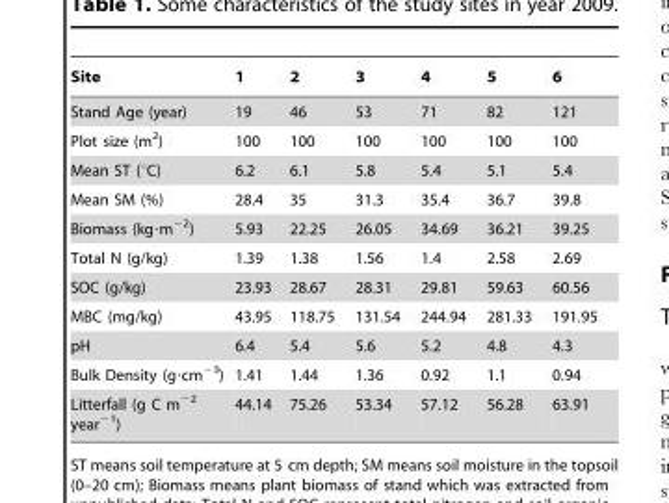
<table><thead><tr><td>Site</td><td>1</td><td>2</td><td>3</td><td>4</td><td>5</td><td>6</td></tr></thead><tbody><tr><td>Stand Age (year)</td><td>19</td><td>46</td><td>53</td><td>71</td><td>82</td><td>121</td></tr><tr><td>Plot size (m<sup>2</sup>)</td><td>100</td><td>100</td><td>100</td><td>100</td><td>100</td><td>100</td></tr><tr><td>Mean ST (°C)</td><td>6.2</td><td>6.1</td><td>5.8</td><td>5.4</td><td>5.1</td><td>5.4</td></tr><tr><td>Mean SM (%)</td><td>28.4</td><td>35</td><td>31.3</td><td>35.4</td><td>36.7</td><td>39.8</td></tr><tr><td>Biomass (kg·m<sup>−2</sup>)</td><td>5.93</td><td>22.25</td><td>26.05</td><td>34.69</td><td>36.21</td><td>39.25</td></tr><tr><td>Total N (g/kg)</td><td>1.39</td><td>1.38</td><td>1.56</td><td>1.4</td><td>2.58</td><td>2.69</td></tr><tr><td>SOC (g/kg)</td><td>23.93</td><td>28.67</td><td>28.31</td><td>29.81</td><td>59.63</td><td>60.56</td></tr><tr><td>MBC (mg/kg)</td><td>43.95</td><td>118.75</td><td>131.54</td><td>244.94</td><td>281.33</td><td>191.95</td></tr><tr><td>pH</td><td>6.4</td><td>5.4</td><td>5.6</td><td>5.2</td><td>4.8</td><td>4.3</td></tr><tr><td>Bulk Density (g·cm<sup>−3</sup>)</td><td>1.41</td><td>1.44</td><td>1.36</td><td>0.92</td><td>1.1</td><td>0.94</td></tr><tr><td>Litterfall (g C m<sup>−2</sup> year<sup>−1</sup>)</td><td>44.14</td><td>75.26</td><td>53.34</td><td>57.12</td><td>56.28</td><td>63.91</td></tr></tbody></table>